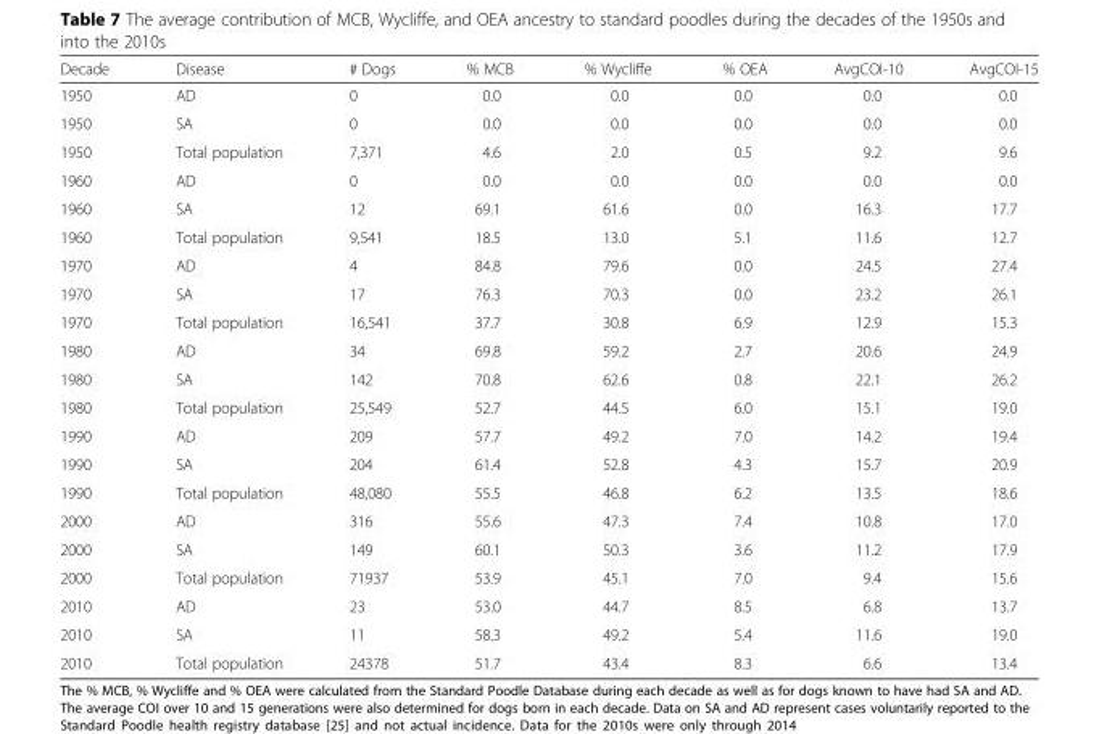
<table><thead><tr><td>Decade</td><td>Disease</td><td># Dogs</td><td>% MCB</td><td>% Wycliffe</td><td>% OEA</td><td>AvgCOI-10</td><td>AvgCOI-15</td></tr></thead><tbody><tr><td>1950</td><td>AD</td><td>0</td><td>0.0</td><td>0.0</td><td>0.0</td><td>0.0</td><td>0.0</td></tr><tr><td>1950</td><td>SA</td><td>0</td><td>0.0</td><td>0.0</td><td>0.0</td><td>0.0</td><td>0.0</td></tr><tr><td>1950</td><td>Total population</td><td>7,371</td><td>4.6</td><td>2.0</td><td>0.5</td><td>9.2</td><td>9.6</td></tr><tr><td>1960</td><td>AD</td><td>0</td><td>0.0</td><td>0.0</td><td>0.0</td><td>0.0</td><td>0.0</td></tr><tr><td>1960</td><td>SA</td><td>12</td><td>69.1</td><td>61.6</td><td>0.0</td><td>16.3</td><td>17.7</td></tr><tr><td>1960</td><td>Total population</td><td>9,541</td><td>18.5</td><td>13.0</td><td>5.1</td><td>11.6</td><td>12.7</td></tr><tr><td>1970</td><td>AD</td><td>4</td><td>84.8</td><td>79.6</td><td>0.0</td><td>24.5</td><td>27.4</td></tr><tr><td>1970</td><td>SA</td><td>17</td><td>76.3</td><td>70.3</td><td>0.0</td><td>23.2</td><td>26.1</td></tr><tr><td>1970</td><td>Total population</td><td>16,541</td><td>37.7</td><td>30.8</td><td>6.9</td><td>12.9</td><td>15.3</td></tr><tr><td>1980</td><td>AD</td><td>34</td><td>69.8</td><td>59.2</td><td>2.7</td><td>20.6</td><td>24.9</td></tr><tr><td>1980</td><td>SA</td><td>142</td><td>70.8</td><td>62.6</td><td>0.8</td><td>22.1</td><td>26.2</td></tr><tr><td>1980</td><td>Total population</td><td>25,549</td><td>52.7</td><td>44.5</td><td>6.0</td><td>15.1</td><td>19.0</td></tr><tr><td>1990</td><td>AD</td><td>209</td><td>57.7</td><td>49.2</td><td>7.0</td><td>14.2</td><td>19.4</td></tr><tr><td>1990</td><td>SA</td><td>204</td><td>61.4</td><td>52.8</td><td>4.3</td><td>15.7</td><td>20.9</td></tr><tr><td>1990</td><td>Total population</td><td>48,080</td><td>55.5</td><td>46.8</td><td>6.2</td><td>13.5</td><td>18.6</td></tr><tr><td>2000</td><td>AD</td><td>316</td><td>55.6</td><td>47.3</td><td>7.4</td><td>10.8</td><td>17.0</td></tr><tr><td>2000</td><td>SA</td><td>149</td><td>60.1</td><td>50.3</td><td>3.6</td><td>11.2</td><td>17.9</td></tr><tr><td>2000</td><td>Total population</td><td>71937</td><td>53.9</td><td>45.1</td><td>7.0</td><td>9.4</td><td>15.6</td></tr><tr><td>2010</td><td>AD</td><td>23</td><td>53.0</td><td>44.7</td><td>8.5</td><td>6.8</td><td>13.7</td></tr><tr><td>2010</td><td>SA</td><td>11</td><td>58.3</td><td>49.2</td><td>5.4</td><td>11.6</td><td>19.0</td></tr><tr><td>2010</td><td>Total population</td><td>24378</td><td>51.7</td><td>43.4</td><td>8.3</td><td>6.6</td><td>13.4</td></tr></tbody></table>